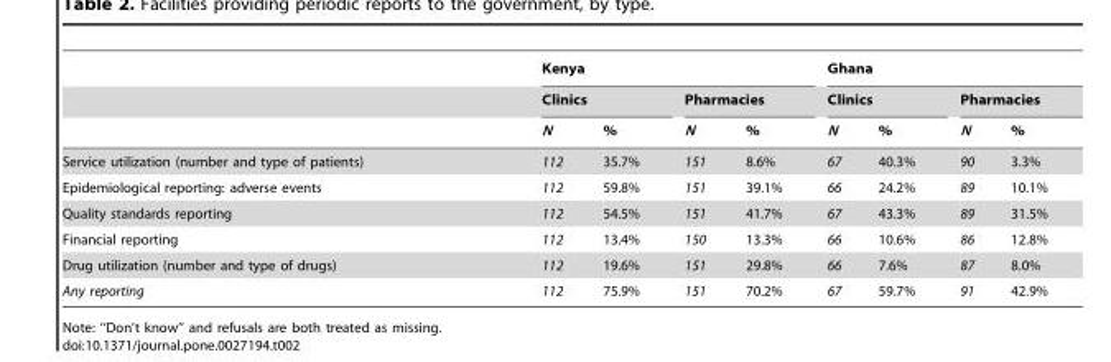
<table><thead><tr><td rowspan="3"></td><td colspan="4">Kenya</td><td colspan="4">Ghana</td></tr><tr><td colspan="2">Clinics</td><td colspan="2">Pharmacies</td><td colspan="2">Clinics</td><td colspan="2">Pharmacies</td></tr><tr><td>N</td><td>%</td><td>N</td><td>%</td><td>N</td><td>%</td><td>N</td><td>%</td></tr></thead><tbody><tr><td>Service utilization (number and type of patients)</td><td>112</td><td>35.7%</td><td>151</td><td>8.6%</td><td>67</td><td>40.3%</td><td>90</td><td>3.3%</td></tr><tr><td>Epidemiological reporting: adverse events</td><td>112</td><td>59.8%</td><td>151</td><td>39.1%</td><td>66</td><td>24.2%</td><td>89</td><td>10.1%</td></tr><tr><td>Quality standards reporting</td><td>112</td><td>54.5%</td><td>151</td><td>41.7%</td><td>67</td><td>43.3%</td><td>89</td><td>31.5%</td></tr><tr><td>Financial reporting</td><td>112</td><td>13.4%</td><td>150</td><td>13.3%</td><td>66</td><td>10.6%</td><td>86</td><td>12.8%</td></tr><tr><td>Drug utilization (number and type of drugs)</td><td>112</td><td>19.6%</td><td>151</td><td>29.8%</td><td>66</td><td>7.6%</td><td>87</td><td>8.0%</td></tr><tr><td>Any reporting</td><td>112</td><td>75.9%</td><td>151</td><td>70.2%</td><td>67</td><td>59.7%</td><td>91</td><td>42.9%</td></tr></tbody></table>